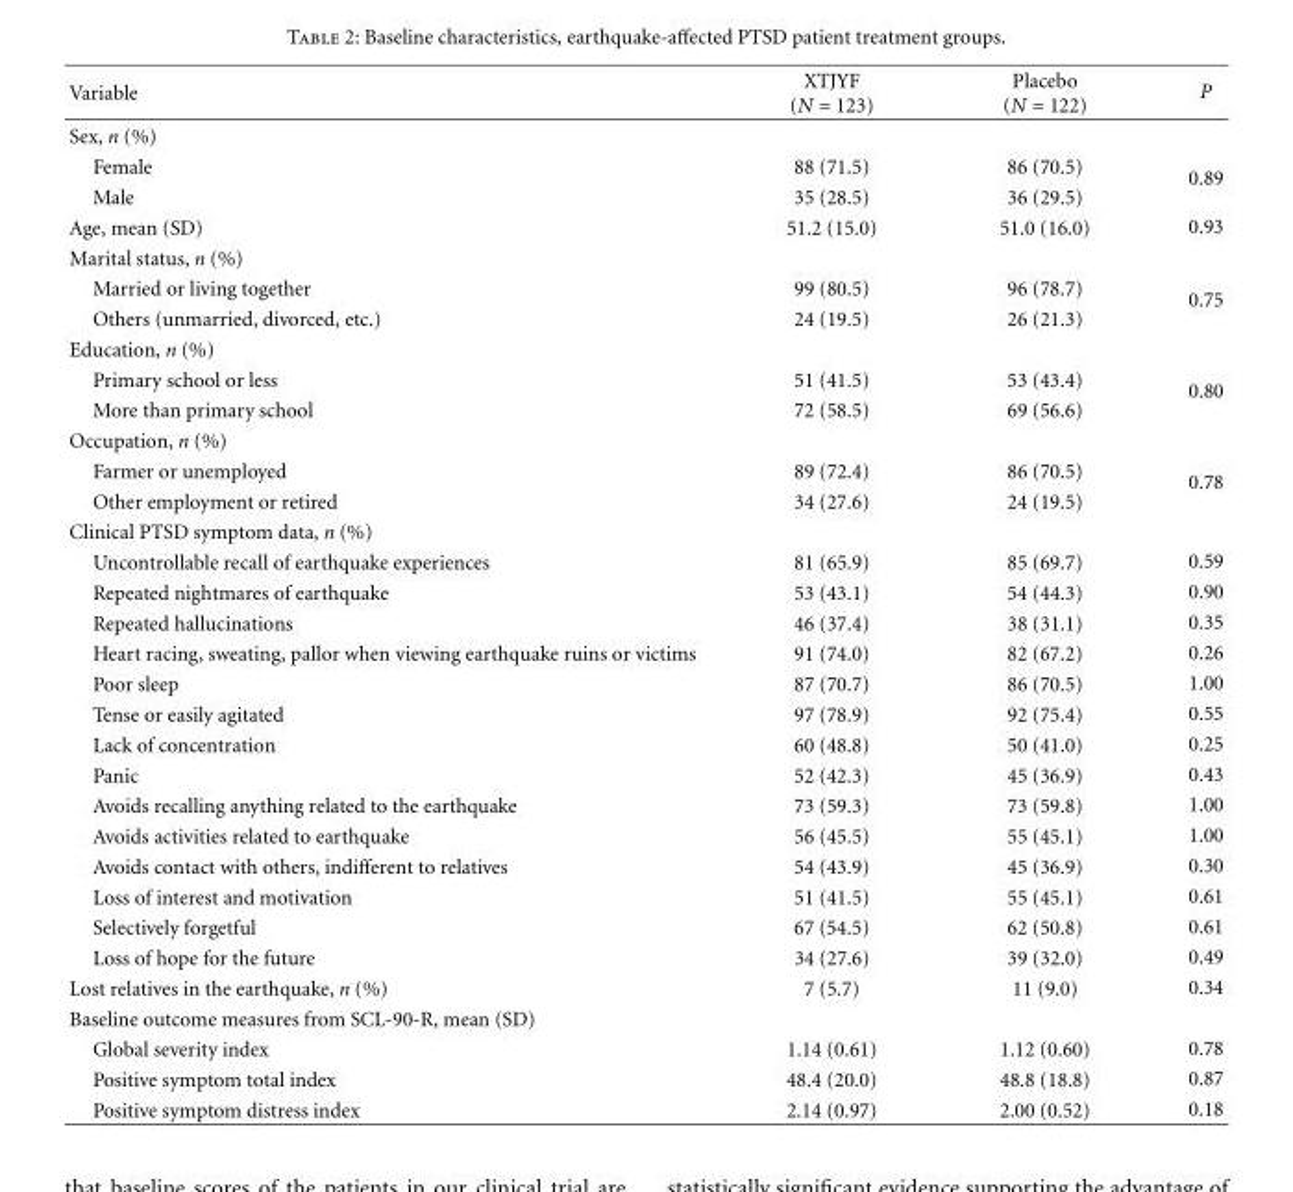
<table><thead><tr><td>Variable</td><td>XTJYF (N = 123)</td><td>Placebo (N = 122)</td><td>P</td></tr></thead><tbody><tr><td colspan="4">Sex, n (%)</td></tr><tr><td>Female</td><td>88 (71.5)</td><td>86 (70.5)</td><td rowspan="2">0.89</td></tr><tr><td>Male</td><td>35 (28.5)</td><td>36 (29.5)</td></tr><tr><td>Age, mean (SD)</td><td>51.2 (15.0)</td><td>51.0 (16.0)</td><td>0.93</td></tr><tr><td colspan="4">Marital status, n (%)</td></tr><tr><td>Married or living together</td><td>99 (80.5)</td><td>96 (78.7)</td><td rowspan="2">0.75</td></tr><tr><td>Others (unmarried, divorced, etc.)</td><td>24 (19.5)</td><td>26 (21.3)</td></tr><tr><td colspan="4">Education, n (%)</td></tr><tr><td>Primary school or less</td><td>51 (41.5)</td><td>53 (43.4)</td><td rowspan="2">0.80</td></tr><tr><td>More than primary school</td><td>72 (58.5)</td><td>69 (56.6)</td></tr><tr><td colspan="4">Occupation, n (%)</td></tr><tr><td>Farmer or unemployed</td><td>89 (72.4)</td><td>86 (70.5)</td><td rowspan="2">0.78</td></tr><tr><td>Other employment or retired</td><td>34 (27.6)</td><td>24 (19.5)</td></tr><tr><td colspan="4">Clinical PTSD symptom data, n (%)</td></tr><tr><td>Uncontrollable recall of earthquake experiences</td><td>81 (65.9)</td><td>85 (69.7)</td><td>0.59</td></tr><tr><td>Repeated nightmares of earthquake</td><td>53 (43.1)</td><td>54 (44.3)</td><td>0.90</td></tr><tr><td>Repeated hallucinations</td><td>46 (37.4)</td><td>38 (31.1)</td><td>0.35</td></tr><tr><td>Heart racing, sweating, pallor when viewing earthquake ruins or victims</td><td>91 (74.0)</td><td>82 (67.2)</td><td>0.26</td></tr><tr><td>Poor sleep</td><td>87 (70.7)</td><td>86 (70.5)</td><td>1.00</td></tr><tr><td>Tense or easily agitated</td><td>97 (78.9)</td><td>92 (75.4)</td><td>0.55</td></tr><tr><td>Lack of concentration</td><td>60 (48.8)</td><td>50 (41.0)</td><td>0.25</td></tr><tr><td>Panic</td><td>52 (42.3)</td><td>45 (36.9)</td><td>0.43</td></tr><tr><td>Avoids recalling anything related to the earthquake</td><td>73 (59.3)</td><td>73 (59.8)</td><td>1.00</td></tr><tr><td>Avoids activities related to earthquake</td><td>56 (45.5)</td><td>55 (45.1)</td><td>1.00</td></tr><tr><td>Avoids contact with others, indifferent to relatives</td><td>54 (43.9)</td><td>45 (36.9)</td><td>0.30</td></tr><tr><td>Loss of interest and motivation</td><td>51 (41.5)</td><td>55 (45.1)</td><td>0.61</td></tr><tr><td>Selectively forgetful</td><td>67 (54.5)</td><td>62 (50.8)</td><td>0.61</td></tr><tr><td>Loss of hope for the future</td><td>34 (27.6)</td><td>39 (32.0)</td><td>0.49</td></tr><tr><td>Lost relatives in the earthquake, n (%)</td><td>7 (5.7)</td><td>11 (9.0)</td><td>0.34</td></tr><tr><td colspan="4">Baseline outcome measures from SCL-90-R, mean (SD)</td></tr><tr><td>Global severity index</td><td>1.14 (0.61)</td><td>1.12 (0.60)</td><td>0.78</td></tr><tr><td>Positive symptom total index</td><td>48.4 (20.0)</td><td>48.8 (18.8)</td><td>0.87</td></tr><tr><td>Positive symptom distress index</td><td>2.14 (0.97)</td><td>2.00 (0.52)</td><td>0.18</td></tr></tbody></table>